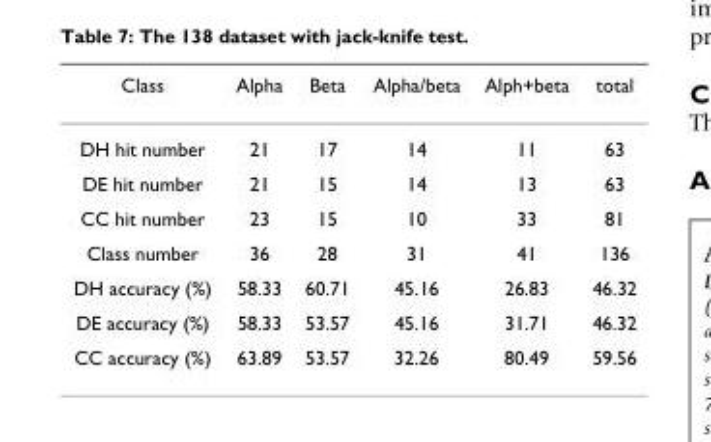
<table><thead><tr><td>Class</td><td>Alpha</td><td>Beta</td><td>Alpha/beta</td><td>Alph+beta</td><td>total</td></tr></thead><tbody><tr><td>DH hit number</td><td>21</td><td>17</td><td>14</td><td>11</td><td>63</td></tr><tr><td>DE hit number</td><td>21</td><td>15</td><td>14</td><td>13</td><td>63</td></tr><tr><td>CC hit number</td><td>23</td><td>15</td><td>10</td><td>33</td><td>81</td></tr><tr><td>Class number</td><td>36</td><td>28</td><td>31</td><td>41</td><td>136</td></tr><tr><td>DH accuracy (%)</td><td>58.33</td><td>60.71</td><td>45.16</td><td>26.83</td><td>46.32</td></tr><tr><td>DE accuracy (%)</td><td>58.33</td><td>53.57</td><td>45.16</td><td>31.71</td><td>46.32</td></tr><tr><td>CC accuracy (%)</td><td>63.89</td><td>53.57</td><td>32.26</td><td>80.49</td><td>59.56</td></tr></tbody></table>